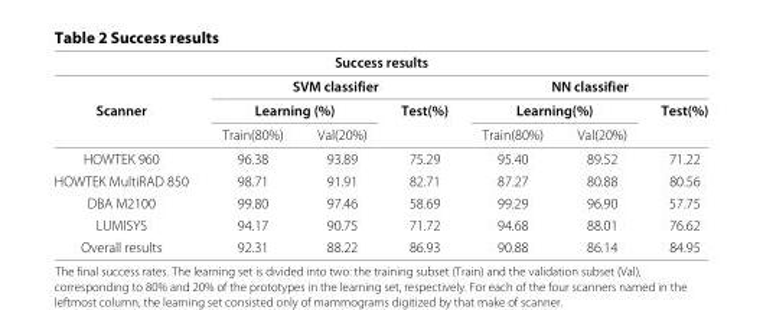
<table><thead><tr><td colspan="7">Success results</td></tr><tr><td rowspan="3">Scanner</td><td colspan="3">SVM classifier</td><td colspan="3">NN classifier</td></tr><tr><td colspan="2">Learning (%)</td><td rowspan="2">Test(%)</td><td colspan="2">Learning(%)</td><td rowspan="2">Test(%)</td></tr><tr><td>Train(80%)</td><td>Val(20%)</td><td>Train(80%)</td><td>Val(20%)</td></tr></thead><tbody><tr><td>HOWTEK 960</td><td>96.38</td><td>93.89</td><td>75.29</td><td>95.40</td><td>89.52</td><td>71.22</td></tr><tr><td>HOWTEK MultiRAD 850</td><td>98.71</td><td>91.91</td><td>82.71</td><td>87.27</td><td>80.88</td><td>80.56</td></tr><tr><td>DBA M2100</td><td>99.80</td><td>97.46</td><td>58.69</td><td>99.29</td><td>96.90</td><td>57.75</td></tr><tr><td>LUMISYS</td><td>94.17</td><td>90.75</td><td>71.72</td><td>94.68</td><td>88.01</td><td>76.62</td></tr><tr><td>Overall results</td><td>92.31</td><td>88.22</td><td>86.93</td><td>90.88</td><td>86.14</td><td>84.95</td></tr></tbody></table>